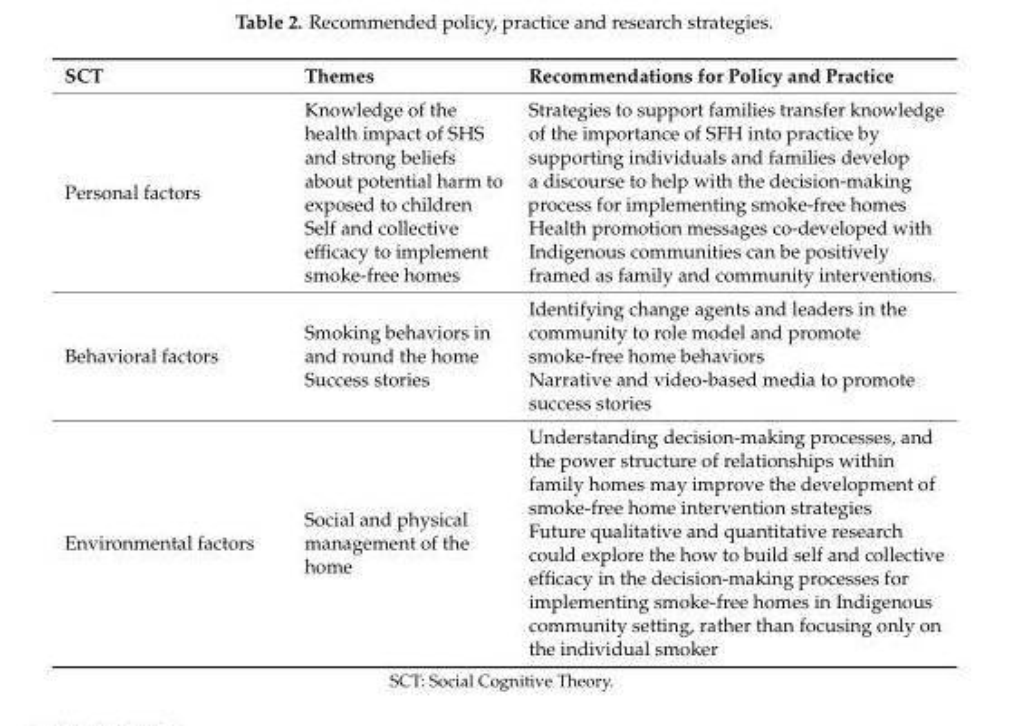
<table><thead><tr><td>SCT</td><td>Themes</td><td>Recommendations for Policy and Practice</td></tr></thead><tbody><tr><td>Personal factors</td><td>Knowledge of the health impact of SHS and strong beliefs about potential harm to exposed to children Self and collective efficacy to implement smoke-free homes</td><td>Strategies to support families transfer knowledge of the importance of SFH into practice by supporting individuals and families develop a discourse to help with the decision-making process for implementing smoke-free homes Health promotion messages co-developed with Indigenous communities can be positively framed as family and community interventions.</td></tr><tr><td>Behavioral factors</td><td>Smoking behaviors in and round the home Success stories</td><td>Identifying change agents and leaders in the community to role model and promote smoke-free home behaviors Narrative and video-based media to promote success stories</td></tr><tr><td>Environmental factors</td><td>Social and physical management of the home</td><td>Understanding decision-making processes, and the power structure of relationships within family homes may improve the development of smoke-free home intervention strategies Future qualitative and quantitative research could explore the how to build self and collective efficacy in the decision-making processes for implementing smoke-free homes in Indigenous community setting, rather than focusing only on the individual smoker</td></tr></tbody></table>